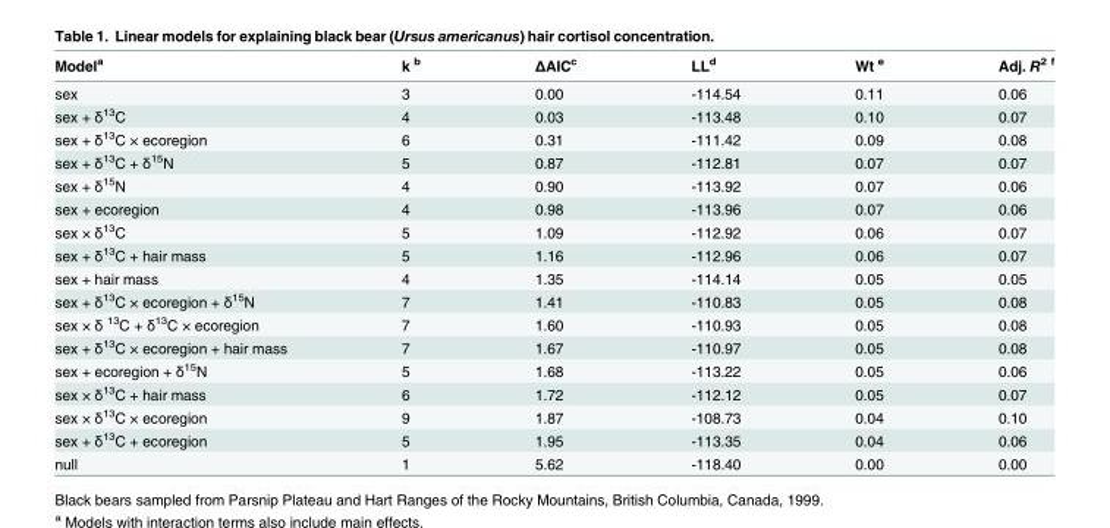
<table><thead><tr><td>Model<sup>a</sup></td><td>k <sup>b</sup></td><td>ΔAIC<sup>c</sup></td><td>LL<sup>d</sup></td><td>Wt <sup>e</sup></td><td>Adj. R<sup>2 f</sup></td></tr></thead><tbody><tr><td>sex</td><td>3</td><td>0.00</td><td>-114.54</td><td>0.11</td><td>0.06</td></tr><tr><td>sex + δ<sup>13</sup>C</td><td>4</td><td>0.03</td><td>-113.48</td><td>0.10</td><td>0.07</td></tr><tr><td>sex + δ<sup>13</sup>C × ecoregion</td><td>6</td><td>0.31</td><td>-111.42</td><td>0.09</td><td>0.08</td></tr><tr><td>sex + δ<sup>13</sup>C + δ<sup>15</sup>N</td><td>5</td><td>0.87</td><td>-112.81</td><td>0.07</td><td>0.07</td></tr><tr><td>sex + δ<sup>15</sup>N</td><td>4</td><td>0.90</td><td>-113.92</td><td>0.07</td><td>0.06</td></tr><tr><td>sex + ecoregion</td><td>4</td><td>0.98</td><td>-113.96</td><td>0.07</td><td>0.06</td></tr><tr><td>sex × δ<sup>13</sup>C</td><td>5</td><td>1.09</td><td>-112.92</td><td>0.06</td><td>0.07</td></tr><tr><td>sex + δ<sup>13</sup>C + hair mass</td><td>5</td><td>1.16</td><td>-112.96</td><td>0.06</td><td>0.07</td></tr><tr><td>sex + hair mass</td><td>4</td><td>1.35</td><td>-114.14</td><td>0.05</td><td>0.05</td></tr><tr><td>sex + δ<sup>13</sup>C × ecoregion + δ<sup>15</sup>N</td><td>7</td><td>1.41</td><td>-110.83</td><td>0.05</td><td>0.08</td></tr><tr><td>sex × δ <sup>13</sup>C + δ<sup>13</sup>C × ecoregion</td><td>7</td><td>1.60</td><td>-110.93</td><td>0.05</td><td>0.08</td></tr><tr><td>sex + δ<sup>13</sup>C × ecoregion + hair mass</td><td>7</td><td>1.67</td><td>-110.97</td><td>0.05</td><td>0.08</td></tr><tr><td>sex + ecoregion + δ<sup>15</sup>N</td><td>5</td><td>1.68</td><td>-113.22</td><td>0.05</td><td>0.06</td></tr><tr><td>sex × δ<sup>13</sup>C + hair mass</td><td>6</td><td>1.72</td><td>-112.12</td><td>0.05</td><td>0.07</td></tr><tr><td>sex × δ<sup>13</sup>C × ecoregion</td><td>9</td><td>1.87</td><td>-108.73</td><td>0.04</td><td>0.10</td></tr><tr><td>sex + δ<sup>13</sup>C + ecoregion</td><td>5</td><td>1.95</td><td>-113.35</td><td>0.04</td><td>0.06</td></tr><tr><td>null</td><td>1</td><td>5.62</td><td>-118.40</td><td>0.00</td><td>0.00</td></tr></tbody></table>